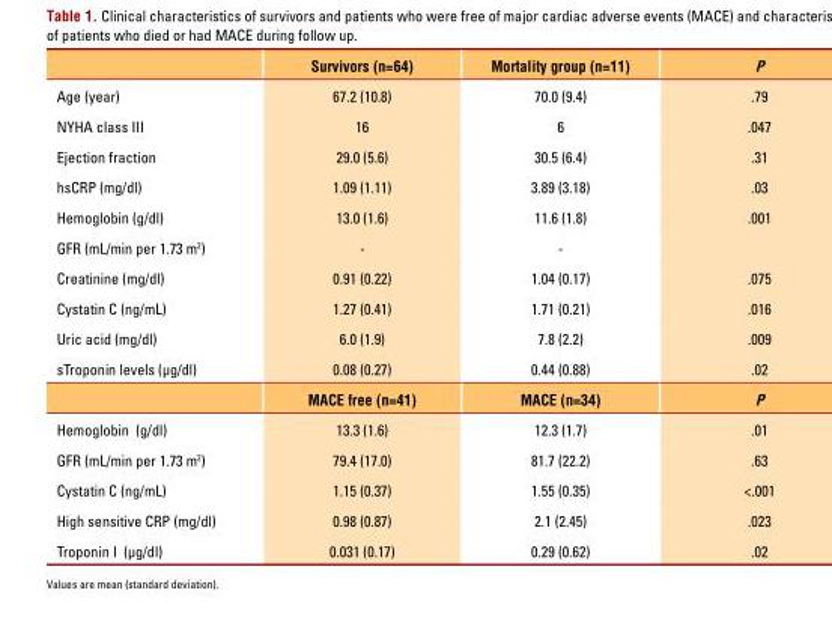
<table><thead><tr><td></td><td>Survivors (n=64)</td><td>Mortality group (n=11)</td><td>P</td></tr></thead><tbody><tr><td>Age (year)</td><td>67.2 (10.8)</td><td>70.0 (9.4)</td><td>.79</td></tr><tr><td>NYHA class III</td><td>16</td><td>6</td><td>.047</td></tr><tr><td>Ejection fraction</td><td>29.0 (5.6)</td><td>30.5 (6.4)</td><td>.31</td></tr><tr><td>hsCRP (mg/dl)</td><td>1.09 (1.11)</td><td>3.89 (3.18)</td><td>.03</td></tr><tr><td>Hemoglobin (g/dl)</td><td>13.0 (1.6)</td><td>11.6 (1.8)</td><td>.001</td></tr><tr><td>GFR (mL/min per 1.73 m<sup>2</sup>)</td><td>-</td><td>-</td><td></td></tr><tr><td>Creatinine (mg/dl)</td><td>0.91 (0.22)</td><td>1.04 (0.17)</td><td>.075</td></tr><tr><td>Cystatin C (ng/mL)</td><td>1.27 (0.41)</td><td>1.71 (0.21)</td><td>.016</td></tr><tr><td>Uric acid (mg/dl)</td><td>6.0 (1.9)</td><td>7.8 (2.2)</td><td>.009</td></tr><tr><td rowspan="2">sTroponin levels (µg/dl)</td><td>0.08 (0.27)</td><td>0.44 (0.88)</td><td>.02</td></tr><tr><td>MACE free (n=41)</td><td>MACE (n=34)</td><td>P</td></tr><tr><td>Hemoglobin (g/dl)</td><td>13.3 (1.6)</td><td>12.3 (1.7)</td><td>.01</td></tr><tr><td>GFR (mL/min per 1.73 m<sup>2</sup>)</td><td>79.4 (17.0)</td><td>81.7 (22.2)</td><td>.63</td></tr><tr><td>Cystatin C (ng/mL)</td><td>1.15 (0.37)</td><td>1.55 (0.35)</td><td>&lt;.001</td></tr><tr><td>High sensitive CRP (mg/dl)</td><td>0.98 (0.87)</td><td>2.1 (2.45)</td><td>.023</td></tr><tr><td>Troponin I (µg/dl)</td><td>0.031 (0.17)</td><td>0.29 (0.62)</td><td>.02</td></tr></tbody></table>